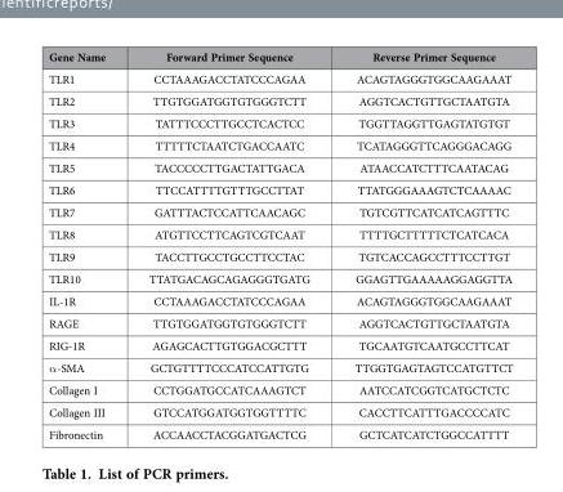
<table><thead><tr><td>Gene Name</td><td>Forward Primer Sequence</td><td>Reverse Primer Sequence</td></tr></thead><tbody><tr><td>TLR1</td><td>CCTAAAGACCTATCCCAGAA</td><td>ACAGTAGGGTGGCAAGAAAT</td></tr><tr><td>TLR2</td><td>TTGTGGATGGTGTGGGTCTT</td><td>AGGTCACTGTTGCTAATGTA</td></tr><tr><td>TLR3</td><td>TATTTCCCTTGCCTCACTCC</td><td>TGGTTAGGTTGAGTATGTGT</td></tr><tr><td>TLR4</td><td>TTTTTCTAATCTGACCAATC</td><td>TCATAGGGTTCAGGGACAGG</td></tr><tr><td>TLR5</td><td>TACCCCCTTGACTATTGACA</td><td>ATAACCATCTTTCAATACAG</td></tr><tr><td>TLR6</td><td>TTCCATTTTGTTTGCCTTAT</td><td>TTATGGGAAAGTCTCAAAAC</td></tr><tr><td>TLR7</td><td>GATTTACTCCATTCAACAGC</td><td>TGTCGTTCATCATCAGTTTC</td></tr><tr><td>TLR8</td><td>ATGTTCCTTCAGTCGTCAAT</td><td>TTTTGCTTTTTCTCATCACA</td></tr><tr><td>TLR9</td><td>TACCTTGCCTGCCTTCCTAC</td><td>TGTCACCAGCCTTTCCTTGT</td></tr><tr><td>TLR10</td><td>TTATGACAGCAGAGGGTGATG</td><td>GGAGTTGAAAAAGGAGGTTA</td></tr><tr><td>IL-1R</td><td>CCTAAAGACCTATCCCAGAA</td><td>ACAGTAGGGTGGCAAGAAAT</td></tr><tr><td>RAGE</td><td>TTGTGGATGGTGTGGGTCTT</td><td>AGGTCACTGTTGCTAATGTA</td></tr><tr><td>RIG-1R</td><td>AGAGCACTTGTGGACGCTTT</td><td>TGCAATGTCAATGCCTTCAT</td></tr><tr><td>α -SMA</td><td>GCTGTTTTCCCATCCATTGTG</td><td>TTGGTGAGTAGTCCATGTTCT</td></tr><tr><td>Collagen I</td><td>CCTGGATGCCATCAAAGTCT</td><td>AATCCATCGGTCATGCTCTC</td></tr><tr><td>Collagen III</td><td>GTCCATGGATGGTGGTTTTC</td><td>CACCTTCATTTGACCCCATC</td></tr><tr><td>Fibronectin</td><td>ACCAACCTACGGATGACTCG</td><td>GCTCATCATCTGGCCATTTT</td></tr></tbody></table>